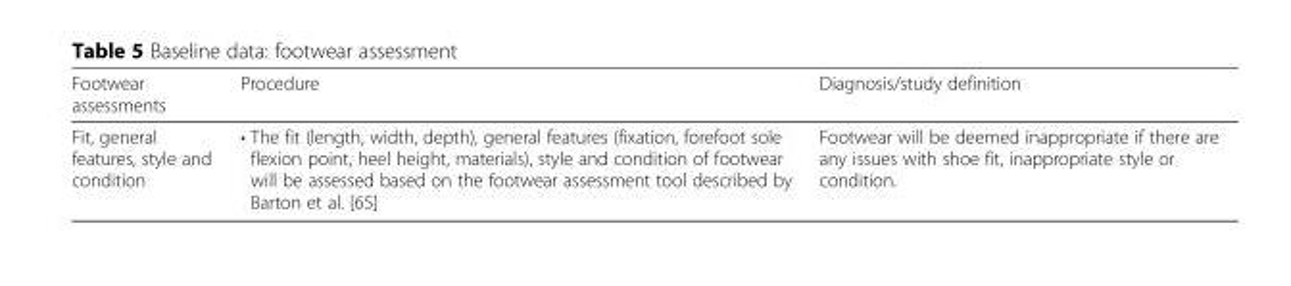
<table><thead><tr><td>Footwear assessments</td><td>Procedure</td><td>Diagnosis/study definition</td></tr></thead><tbody><tr><td>Fit, general features, style and condition</td><td>• The fit (length, width, depth), general features (fixation, forefoot sole flexion point, heel height, materials), style and condition of footwear will be assessed based on the footwear assessment tool described by Barton et al. [65]</td><td>Footwear will be deemed inappropriate if there are any issues with shoe fit, inappropriate style or condition.</td></tr></tbody></table>